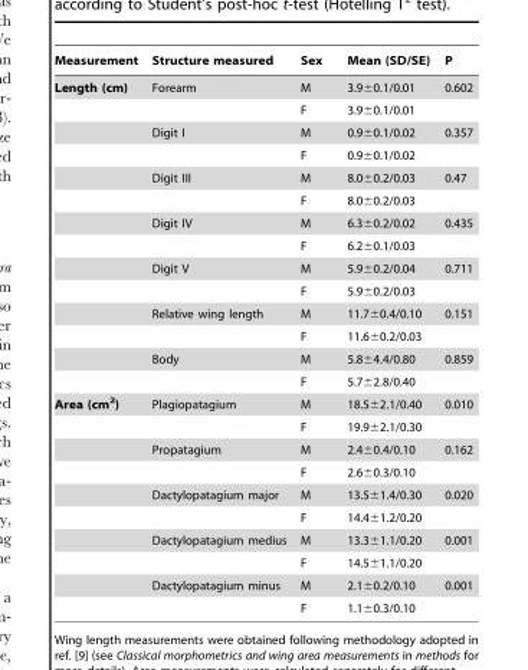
<table><thead><tr><td>Measurement</td><td>Structure measured</td><td>Sex</td><td>Mean (SD/SE)</td><td>P</td></tr></thead><tbody><tr><td rowspan="14">Length (cm)</td><td>Forearm</td><td>M</td><td>3.9±0.1/0.01</td><td>0.602</td></tr><tr><td></td><td>F</td><td>3.9±0.1/0.01</td><td></td></tr><tr><td>Digit I</td><td>M</td><td>0.9±0.1/0.02</td><td>0.357</td></tr><tr><td></td><td>F</td><td>0.9±0.1/0.02</td><td></td></tr><tr><td>Digit III</td><td>M</td><td>8.0±0.2/0.03</td><td>0.47</td></tr><tr><td></td><td>F</td><td>8.0±0.2/0.03</td><td></td></tr><tr><td>Digit IV</td><td>M</td><td>6.3±0.2/0.02</td><td>0.435</td></tr><tr><td></td><td>F</td><td>6.2±0.1/0.03</td><td></td></tr><tr><td>Digit V</td><td>M</td><td>5.9±0.2/0.04</td><td>0.711</td></tr><tr><td></td><td>F</td><td>5.9±0.2/0.03</td><td></td></tr><tr><td>Relative wing length</td><td>M</td><td>11.7±0.4/0.10</td><td>0.151</td></tr><tr><td></td><td>F</td><td>11.6±0.2/0.03</td><td></td></tr><tr><td>Body</td><td>M</td><td>5.8±4.4/0.80</td><td>0.859</td></tr><tr><td></td><td>F</td><td>5.7±2.8/0.40</td><td></td></tr><tr><td rowspan="10">Area (cm<sup>2</sup>)</td><td>Plagiopatagium</td><td>M</td><td>18.5±2.1/0.40</td><td>0.010</td></tr><tr><td></td><td>F</td><td>19.9±2.1/0.30</td><td></td></tr><tr><td>Propatagium</td><td>M</td><td>2.4±0.4/0.10</td><td>0.162</td></tr><tr><td></td><td>F</td><td>2.6±0.3/0.10</td><td></td></tr><tr><td>Dactylopatagium major</td><td>M</td><td>13.5±1.4/0.30</td><td>0.020</td></tr><tr><td></td><td>F</td><td>14.4±1.2/0.20</td><td></td></tr><tr><td>Dactylopatagium medius</td><td>M</td><td>13.3±1.1/0.20</td><td>0.001</td></tr><tr><td></td><td>F</td><td>14.5±1.1/0.20</td><td></td></tr><tr><td>Dactylopatagium minus</td><td>M</td><td>2.1±0.2/0.10</td><td>0.001</td></tr><tr><td></td><td>F</td><td>1.1±0.3/0.10</td><td></td></tr></tbody></table>